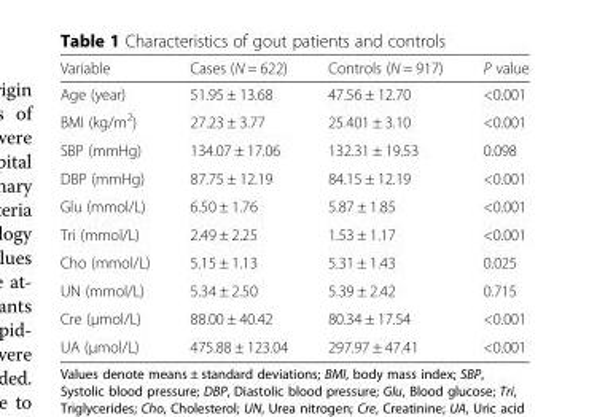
<table><thead><tr><td>Variable</td><td>Cases (N = 622)</td><td>Controls (N = 917)</td><td>P value</td></tr></thead><tbody><tr><td>Age (year)</td><td>51.95 ± 13.68</td><td>47.56 ± 12.70</td><td>&lt;0.001</td></tr><tr><td>BMI (kg/m<sup>2</sup>)</td><td>27.23 ± 3.77</td><td>25.401 ± 3.10</td><td>&lt;0.001</td></tr><tr><td>SBP (mmHg)</td><td>134.07 ± 17.06</td><td>132.31 ± 19.53</td><td>0.098</td></tr><tr><td>DBP (mmHg)</td><td>87.75 ± 12.19</td><td>84.15 ± 12.19</td><td>&lt;0.001</td></tr><tr><td>Glu (mmol/L)</td><td>6.50 ± 1.76</td><td>5.87 ± 1.85</td><td>&lt;0.001</td></tr><tr><td>Tri (mmol/L)</td><td>2.49 ± 2.25</td><td>1.53 ± 1.17</td><td>&lt;0.001</td></tr><tr><td>Cho (mmol/L)</td><td>5.15 ± 1.13</td><td>5.31 ± 1.43</td><td>0.025</td></tr><tr><td>UN (mmol/L)</td><td>5.34 ± 2.50</td><td>5.39 ± 2.42</td><td>0.715</td></tr><tr><td>Cre (μmol/L)</td><td>88.00 ± 40.42</td><td>80.34 ± 17.54</td><td>&lt;0.001</td></tr><tr><td>UA (μmol/L)</td><td>475.88 ± 123.04</td><td>297.97 ± 47.41</td><td>&lt;0.001</td></tr></tbody></table>